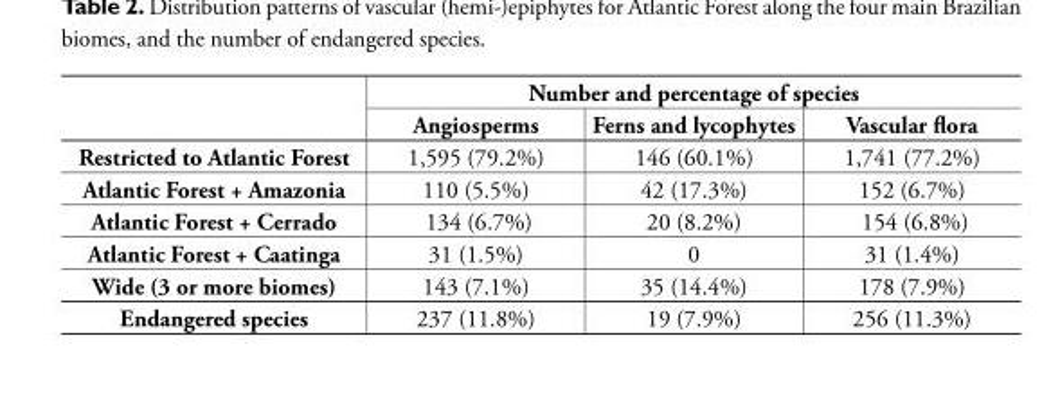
<table><thead><tr><td rowspan="2"></td><td colspan="3">Number and percentage of species</td></tr><tr><td>Angiosperms</td><td>Ferns and lycophytes</td><td>Vascular fl ora</td></tr></thead><tbody><tr><td>Restricted to Atlantic Forest</td><td>1,595 (79.2%)</td><td>146 (60.1%)</td><td>1,741 (77.2%)</td></tr><tr><td>Atlantic Forest + Amazonia</td><td>110 (5.5%)</td><td>42 (17.3%)</td><td>152 (6.7%)</td></tr><tr><td>Atlantic Forest + Cerrado</td><td>134 (6.7%)</td><td>20 (8.2%)</td><td>154 (6.8%)</td></tr><tr><td>Atlantic Forest + Caatinga</td><td>31 (1.5%)</td><td>0</td><td>31 (1.4%)</td></tr><tr><td>Wide (3 or more biomes)</td><td>143 (7.1%)</td><td>35 (14.4%)</td><td>178 (7.9%)</td></tr><tr><td>Endangered species</td><td>237 (11.8%)</td><td>19 (7.9%)</td><td>256 (11.3%)</td></tr></tbody></table>